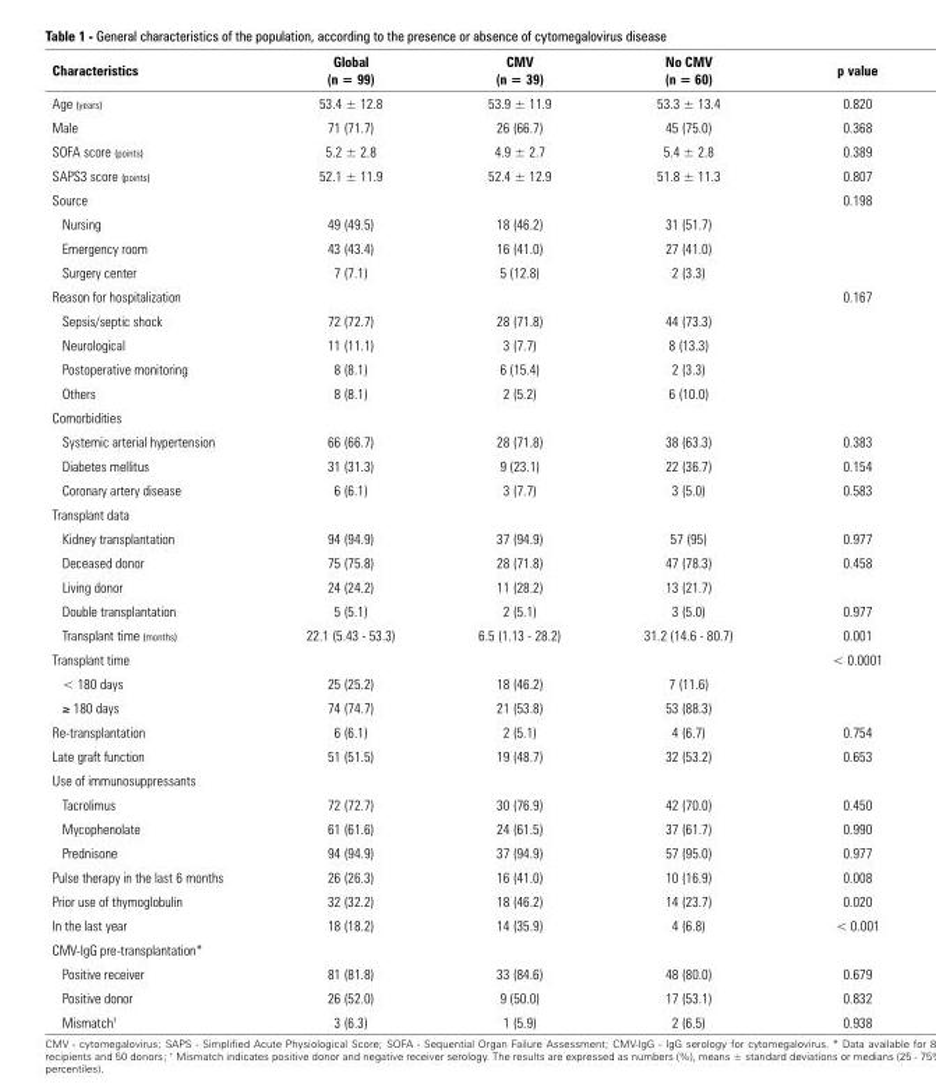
<table><thead><tr><td>Characteristics</td><td>Global (n = 99)</td><td>CMV (n = 39)</td><td>No CMV (n = 60)</td><td>p value</td></tr></thead><tbody><tr><td>Age (years)</td><td>53.4 ± 12.8</td><td>53.9 ± 11.9</td><td>53.3 ± 13.4</td><td>0.820</td></tr><tr><td>Male</td><td>71 (71.7)</td><td>26 (66.7)</td><td>45 (75.0)</td><td>0.368</td></tr><tr><td>SOFA score (points)</td><td>5.2 ± 2.8</td><td>4.9 ± 2.7</td><td>5.4 ± 2.8</td><td>0.389</td></tr><tr><td>SAPS3 score (points)</td><td>52.1 ± 11.9</td><td>52.4 ± 12.9</td><td>51.8 ± 11.3</td><td>0.807</td></tr><tr><td>Source</td><td></td><td></td><td></td><td>0.198</td></tr><tr><td>Nursing</td><td>49 (49.5)</td><td>18 (46.2)</td><td>31 (51.7)</td><td></td></tr><tr><td>Emergency room</td><td>43 (43.4)</td><td>16 (41.0)</td><td>27 (41.0)</td><td></td></tr><tr><td>Surgery center</td><td>7 (7.1)</td><td>5 (12.8)</td><td>2 (3.3)</td><td></td></tr><tr><td>Reason for hospitalization</td><td></td><td></td><td></td><td>0.167</td></tr><tr><td>Sepsis/septic shock</td><td>72 (72.7)</td><td>28 (71.8)</td><td>44 (73.3)</td><td></td></tr><tr><td>Neurological</td><td>11 (11.1)</td><td>3 (7.7)</td><td>8 (13.3)</td><td></td></tr><tr><td>Postoperative monitoring</td><td>8 (8.1)</td><td>6 (15.4)</td><td>2 (3.3)</td><td></td></tr><tr><td>Others</td><td>8 (8.1)</td><td>2 (5.2)</td><td>6 (10.0)</td><td></td></tr><tr><td colspan="5">Comorbidities</td></tr><tr><td>Systemic arterial hypertension</td><td>66 (66.7)</td><td>28 (71.8)</td><td>38 (63.3)</td><td>0.383</td></tr><tr><td>Diabetes mellitus</td><td>31 (31.3)</td><td>9 (23.1)</td><td>22 (36.7)</td><td>0.154</td></tr><tr><td>Coronary artery disease</td><td>6 (6.1)</td><td>3 (7.7)</td><td>3 (5.0)</td><td>0.583</td></tr><tr><td colspan="5">Transplant data</td></tr><tr><td>Kidney transplantation</td><td>94 (94.9)</td><td>37 (94.9)</td><td>57 (95)</td><td>0.977</td></tr><tr><td>Deceased donor</td><td>75 (75.8)</td><td>28 (71.8)</td><td>47 (78.3)</td><td>0.458</td></tr><tr><td>Living donor</td><td>24 (24.2)</td><td>11 (28.2)</td><td>13 (21.7)</td><td></td></tr><tr><td>Double transplantation</td><td>5 (5.1)</td><td>2 (5.1)</td><td>3 (5.0)</td><td>0.977</td></tr><tr><td>Transplant time (months)</td><td>22.1 (5.43 - 53.3)</td><td>6.5 (1.13 - 28.2)</td><td>31.2 (14.6 - 80.7)</td><td>0.001</td></tr><tr><td>Transplant time</td><td></td><td></td><td></td><td>&lt; 0.0001</td></tr><tr><td>&lt; 180 days</td><td>25 (25.2)</td><td>18 (46.2)</td><td>7 (11.6)</td><td></td></tr><tr><td>≥ 180 days</td><td>74 (74.7)</td><td>21 (53.8)</td><td>53 (88.3)</td><td></td></tr><tr><td>Re-transplantation</td><td>6 (6.1)</td><td>2 (5.1)</td><td>4 (6.7)</td><td>0.754</td></tr><tr><td>Late graft function</td><td>51 (51.5)</td><td>19 (48.7)</td><td>32 (53.2)</td><td>0.653</td></tr><tr><td colspan="5">Use of immunosuppressants</td></tr><tr><td>Tacrolimus</td><td>72 (72.7)</td><td>30 (76.9)</td><td>42 (70.0)</td><td>0.450</td></tr><tr><td>Mycophenolate</td><td>61 (61.6)</td><td>24 (61.5)</td><td>37 (61.7)</td><td>0.990</td></tr><tr><td>Prednisone</td><td>94 (94.9)</td><td>37 (94.9)</td><td>57 (95.0)</td><td>0.977</td></tr><tr><td>Pulse therapy in the last 6 months</td><td>26 (26.3)</td><td>16 (41.0)</td><td>10 (16.9)</td><td>0.008</td></tr><tr><td>Prior use of thymoglobulin</td><td>32 (32.2)</td><td>18 (46.2)</td><td>14 (23.7)</td><td>0.020</td></tr><tr><td>In the last year</td><td>18 (18.2)</td><td>14 (35.9)</td><td>4 (6.8)</td><td>&lt; 0.001</td></tr><tr><td colspan="5">CMV-IgG pre-transplantation*</td></tr><tr><td>Positive receiver</td><td>81 (81.8)</td><td>33 (84.6)</td><td>48 (80.0)</td><td>0.679</td></tr><tr><td>Positive donor</td><td>26 (52.0)</td><td>9 (50.0)</td><td>17 (53.1)</td><td>0.832</td></tr><tr><td>Mismatch†</td><td>3 (6.3)</td><td>1 (5.9)</td><td>2 (6.5)</td><td>0.938</td></tr></tbody></table>